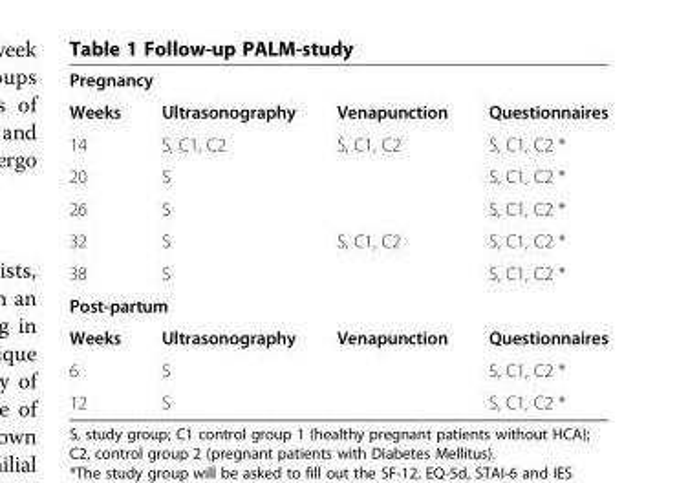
<table><tbody><tr><td colspan="4">Pregnancy</td></tr><tr><td>Weeks</td><td>Ultrasonography</td><td>Venapunction</td><td>Questionnaires</td></tr><tr><td>14</td><td>S, C1, C2</td><td>S, C1, C2</td><td>S, C1, C2 *</td></tr><tr><td>20</td><td>S</td><td></td><td>S, C1, C2 *</td></tr><tr><td>26</td><td>S</td><td></td><td>S, C1, C2 *</td></tr><tr><td>32</td><td>S</td><td>S, C1, C2</td><td>S, C1, C2 *</td></tr><tr><td>38</td><td>S</td><td></td><td>S, C1, C2 *</td></tr><tr><td colspan="4">Post-partum</td></tr><tr><td>Weeks</td><td>Ultrasonography</td><td>Venapunction</td><td>Questionnaires</td></tr><tr><td>6</td><td>S</td><td></td><td>S, C1, C2 *</td></tr><tr><td>12</td><td>S</td><td></td><td>S, C1, C2 *</td></tr></tbody></table>